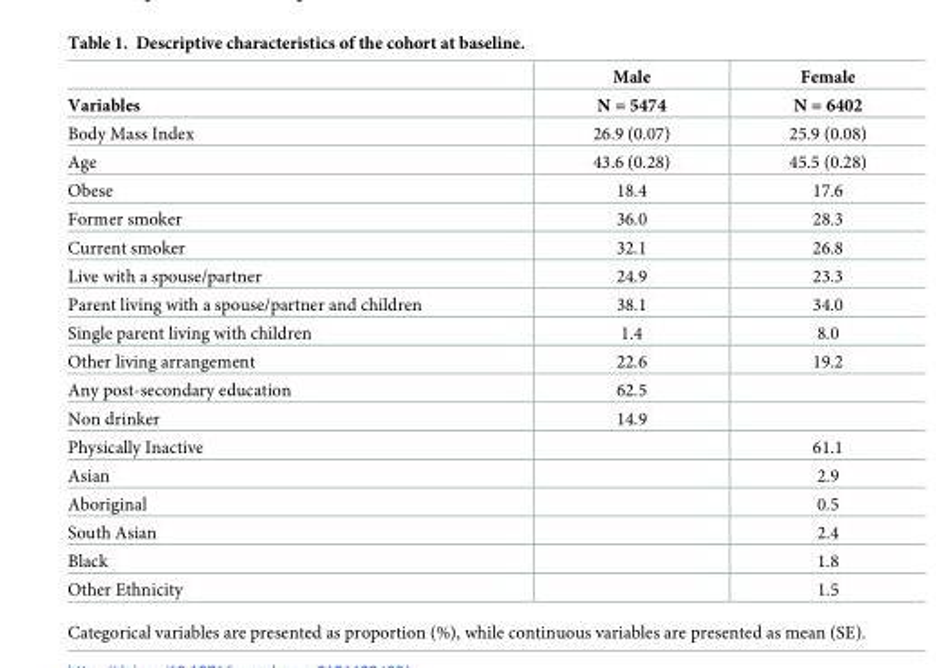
<table><thead><tr><td rowspan="2">Variables</td><td rowspan="2">Male N = 5474</td><td rowspan="2">Female N = 6402</td></tr><tr></tr></thead><tbody><tr><td>Body Mass Index</td><td>26.9 (0.07)</td><td>25.9 (0.08)</td></tr><tr><td>Age</td><td>43.6 (0.28)</td><td>45.5 (0.28)</td></tr><tr><td>Obese</td><td>18.4</td><td>17.6</td></tr><tr><td>Former smoker</td><td>36.0</td><td>28.3</td></tr><tr><td>Current smoker</td><td>32.1</td><td>26.8</td></tr><tr><td>Live with a spouse/partner</td><td>24.9</td><td>23.3</td></tr><tr><td>Parent living with a spouse/partner and children</td><td>38.1</td><td>34.0</td></tr><tr><td>Single parent living with children</td><td>1.4</td><td>8.0</td></tr><tr><td>Other living arrangement</td><td>22.6</td><td>19.2</td></tr><tr><td>Any post-secondary education</td><td>62.5</td><td></td></tr><tr><td>Non drinker</td><td>14.9</td><td></td></tr><tr><td>Physically Inactive</td><td></td><td>61.1</td></tr><tr><td>Asian</td><td></td><td>2.9</td></tr><tr><td>Aboriginal</td><td></td><td>0.5</td></tr><tr><td>South Asian</td><td></td><td>2.4</td></tr><tr><td>Black</td><td></td><td>1.8</td></tr><tr><td>Other Ethnicity</td><td></td><td>1.5</td></tr></tbody></table>